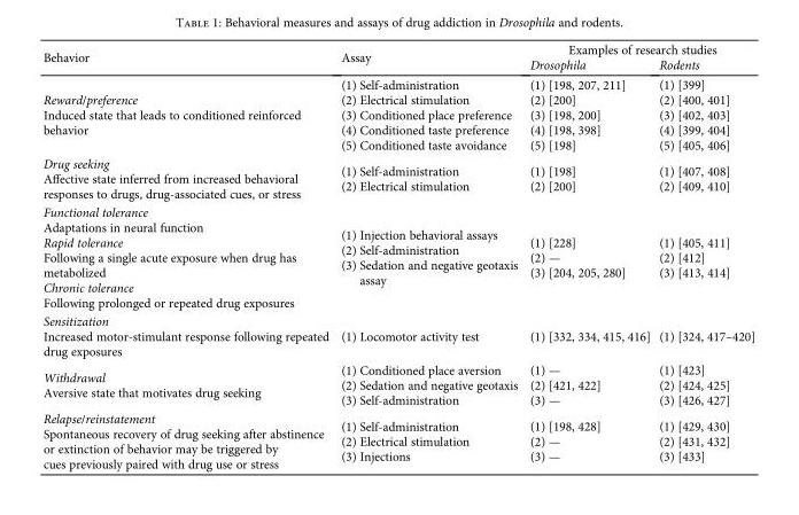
<table><thead><tr><td rowspan="2">Behavior</td><td rowspan="2">Assay</td><td colspan="2">Examples of research studies</td></tr><tr><td>Drosophila</td><td>Rodents</td></tr></thead><tbody><tr><td>Reward/preference Induced state that leads to conditioned reinforced behavior</td><td>(1) Self-administration (2) Electrical stimulation (3) Conditioned place preference (4) Conditioned taste preference (5) Conditioned taste avoidance</td><td>(1) [198, 207, 211] (2) [200] (3) [198, 200] (4) [198, 398] (5) [198]</td><td>(1) [399] (2) [400, 401] (3) [402, 403] (4) [399, 404] (5) [405, 406]</td></tr><tr><td>Drug seeking Affective state inferred from increased behavioral responses to drugs, drug-associated cues, or stress</td><td>(1) Self-administration (2) Electrical stimulation</td><td>(1) [198] (2) [200]</td><td>(1) [407, 408] (2) [409, 410]</td></tr><tr><td>Functional tolerance Adaptations in neural function Rapid tolerance Following a single acute exposure when drug has metabolized Chronic tolerance Following prolonged or repeated drug exposures</td><td>(1) Injection behavioral assays (2) Self-administration (3) Sedation and negative geotaxis assay</td><td>(1) [228] (2) — (3) [204, 205, 280]</td><td>(1) [405, 411] (2) [412] (3) [413, 414]</td></tr><tr><td>Sensitization Increased motor-stimulant response following repeated drug exposures</td><td>(1) Locomotor activity test</td><td>(1) [332, 334, 415, 416]</td><td>(1) [324, 417–420]</td></tr><tr><td>Withdrawal Aversive state that motivates drug seeking</td><td>(1) Conditioned place aversion (2) Sedation and negative geotaxis (3) Self-administration</td><td>(1) — (2) [421, 422] (3) —</td><td>(1) [423] (2) [424, 425] (3) [426, 427]</td></tr><tr><td>Relapse/reinstatement Spontaneous recovery of drug seeking after abstinence or extinction of behavior may be triggered by cues previously paired with drug use or stress</td><td>(1) Self-administration (2) Electrical stimulation (3) Injections</td><td>(1) [198, 428] (2) — (3) —</td><td>(1) [429, 430] (2) [431, 432] (3) [433]</td></tr></tbody></table>